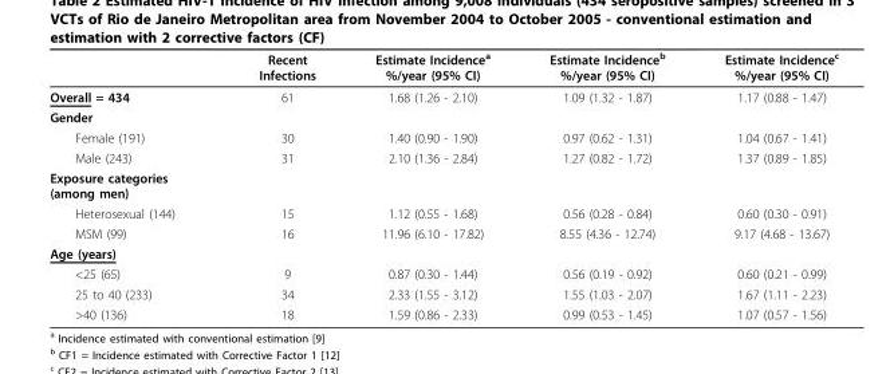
<table><thead><tr><td></td><td>Recent Infections</td><td>Estimate Incidence<sup>a</sup> %/year (95% CI)</td><td>Estimate Incidence<sup>b</sup> %/year (95% CI)</td><td>Estimate Incidence<sup>c</sup> %/year (95% CI)</td></tr></thead><tbody><tr><td>Overall = 434</td><td>61</td><td>1.68 (1.26 - 2.10)</td><td>1.09 (1.32 - 1.87)</td><td>1.17 (0.88 - 1.47)</td></tr><tr><td colspan="5">Gender</td></tr><tr><td>Female (191)</td><td>30</td><td>1.40 (0.90 - 1.90)</td><td>0.97 (0.62 - 1.31)</td><td>1.04 (0.67 - 1.41)</td></tr><tr><td>Male (243)</td><td>31</td><td>2.10 (1.36 - 2.84)</td><td>1.27 (0.82 - 1.72)</td><td>1.37 (0.89 - 1.85)</td></tr><tr><td colspan="5">Exposure categories (among men)</td></tr><tr><td>Heterosexual (144)</td><td>15</td><td>1.12 (0.55 - 1.68)</td><td>0.56 (0.28 - 0.84)</td><td>0.60 (0.30 - 0.91)</td></tr><tr><td>MSM (99)</td><td>16</td><td>11.96 (6.10 - 17.82)</td><td>8.55 (4.36 - 12.74)</td><td>9.17 (4.68 - 13.67)</td></tr><tr><td colspan="5">Age (years)</td></tr><tr><td>&lt;25 (65)</td><td>9</td><td>0.87 (0.30 - 1.44)</td><td>0.56 (0.19 - 0.92)</td><td>0.60 (0.21 - 0.99)</td></tr><tr><td>25 to 40 (233)</td><td>34</td><td>2.33 (1.55 - 3.12)</td><td>1.55 (1.03 - 2.07)</td><td>1.67 (1.11 - 2.23)</td></tr><tr><td>&gt;40 (136)</td><td>18</td><td>1.59 (0.86 - 2.33)</td><td>0.99 (0.53 - 1.45)</td><td>1.07 (0.57 - 1.56)</td></tr></tbody></table>